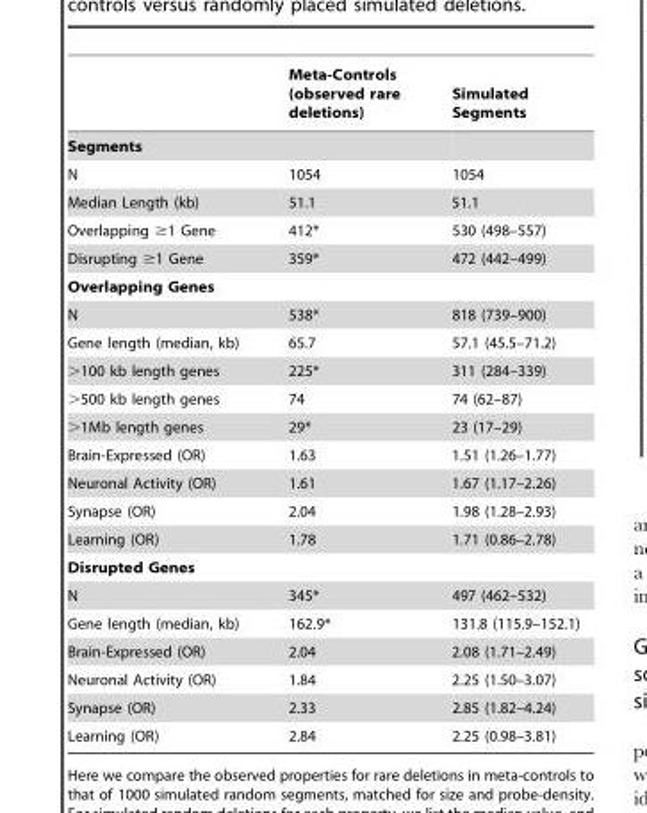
<table><thead><tr><td></td><td>Meta-Controls (observed rare deletions)</td><td>Simulated Segments</td></tr></thead><tbody><tr><td colspan="3">Segments</td></tr><tr><td>N</td><td>1054</td><td>1054</td></tr><tr><td>Median Length (kb)</td><td>51.1</td><td>51.1</td></tr><tr><td>Overlapping ≥1 Gene</td><td>412*</td><td>530 (498–557)</td></tr><tr><td>Disrupting ≥1 Gene</td><td>359*</td><td>472 (442–499)</td></tr><tr><td colspan="3">Overlapping Genes</td></tr><tr><td>N</td><td>538*</td><td>818 (739–900)</td></tr><tr><td>Gene length (median, kb)</td><td>65.7</td><td>57.1 (45.5–71.2)</td></tr><tr><td>&gt;100 kb length genes</td><td>225*</td><td>311 (284–339)</td></tr><tr><td>&gt;500 kb length genes</td><td>74</td><td>74 (62–87)</td></tr><tr><td>&gt;1Mb length genes</td><td>29*</td><td>23 (17–29)</td></tr><tr><td>Brain-Expressed (OR)</td><td>1.63</td><td>1.51 (1.26–1.77)</td></tr><tr><td>Neuronal Activity (OR)</td><td>1.61</td><td>1.67 (1.17–2.26)</td></tr><tr><td>Synapse (OR)</td><td>2.04</td><td>1.98 (1.28–2.93)</td></tr><tr><td>Learning (OR)</td><td>1.78</td><td>1.71 (0.86–2.78)</td></tr><tr><td colspan="3">Disrupted Genes</td></tr><tr><td>N</td><td>345*</td><td>497 (462–532)</td></tr><tr><td>Gene length (median, kb)</td><td>162.9*</td><td>131.8 (115.9–152.1)</td></tr><tr><td>Brain-Expressed (OR)</td><td>2.04</td><td>2.08 (1.71–2.49)</td></tr><tr><td>Neuronal Activity (OR)</td><td>1.84</td><td>2.25 (1.50–3.07)</td></tr><tr><td>Synapse (OR)</td><td>2.33</td><td>2.85 (1.82–4.24)</td></tr><tr><td>Learning (OR)</td><td>2.84</td><td>2.25 (0.98–3.81)</td></tr></tbody></table>